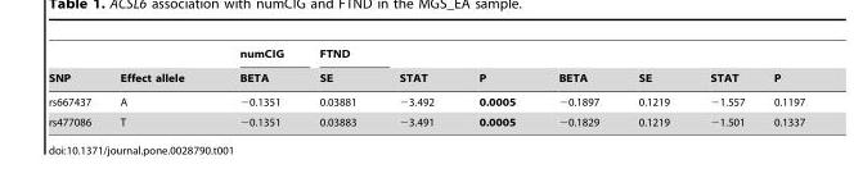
<table><thead><tr><td rowspan="2">SNP</td><td rowspan="2">Effect allele</td><td rowspan="2">numCIG BETA</td><td rowspan="2">FTND SE</td><td rowspan="2">STAT</td><td rowspan="2">P</td><td rowspan="2">BETA</td><td rowspan="2">SE</td><td rowspan="2">STAT</td><td rowspan="2">P</td></tr><tr></tr></thead><tbody><tr><td>rs667437</td><td>A</td><td>−0.1351</td><td>0.03881</td><td>−3.492</td><td>0.0005</td><td>−0.1897</td><td>0.1219</td><td>−1.557</td><td>0.1197</td></tr><tr><td>rs477086</td><td>T</td><td>−0.1351</td><td>0.03883</td><td>−3.491</td><td>0.0005</td><td>−0.1829</td><td>0.1219</td><td>−1.501</td><td>0.1337</td></tr></tbody></table>